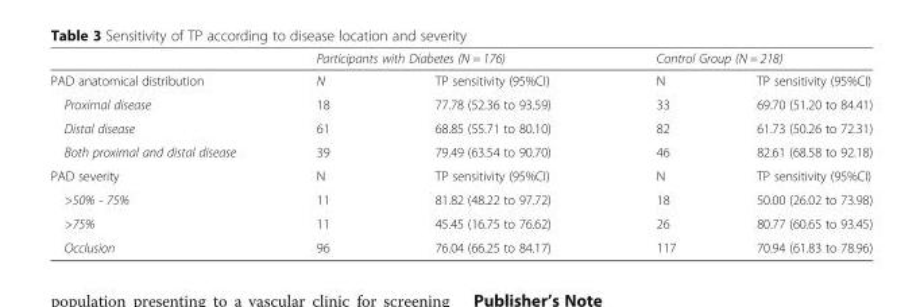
<table><thead><tr><td rowspan="2">PAD anatomical distribution</td><td colspan="2">Participants with Diabetes (N = 176)</td><td colspan="2">Control Group (N = 218)</td></tr><tr><td>N</td><td>TP sensitivity (95%CI)</td><td>N</td><td>TP sensitivity (95%CI)</td></tr></thead><tbody><tr><td>Proximal disease</td><td>18</td><td>77.78 (52.36 to 93.59)</td><td>33</td><td>69.70 (51.20 to 84.41)</td></tr><tr><td>Distal disease</td><td>61</td><td>68.85 (55.71 to 80.10)</td><td>82</td><td>61.73 (50.26 to 72.31)</td></tr><tr><td>Both proximal and distal disease</td><td>39</td><td>79.49 (63.54 to 90.70)</td><td>46</td><td>82.61 (68.58 to 92.18)</td></tr><tr><td>PAD severity</td><td>N</td><td>TP sensitivity (95%CI)</td><td>N</td><td>TP sensitivity (95%CI)</td></tr><tr><td>&gt;50% - 75%</td><td>11</td><td>81.82 (48.22 to 97.72)</td><td>18</td><td>50.00 (26.02 to 73.98)</td></tr><tr><td>&gt;75%</td><td>11</td><td>45.45 (16.75 to 76.62)</td><td>26</td><td>80.77 (60.65 to 93.45)</td></tr><tr><td>Occlusion</td><td>96</td><td>76.04 (66.25 to 84.17)</td><td>117</td><td>70.94 (61.83 to 78.96)</td></tr></tbody></table>